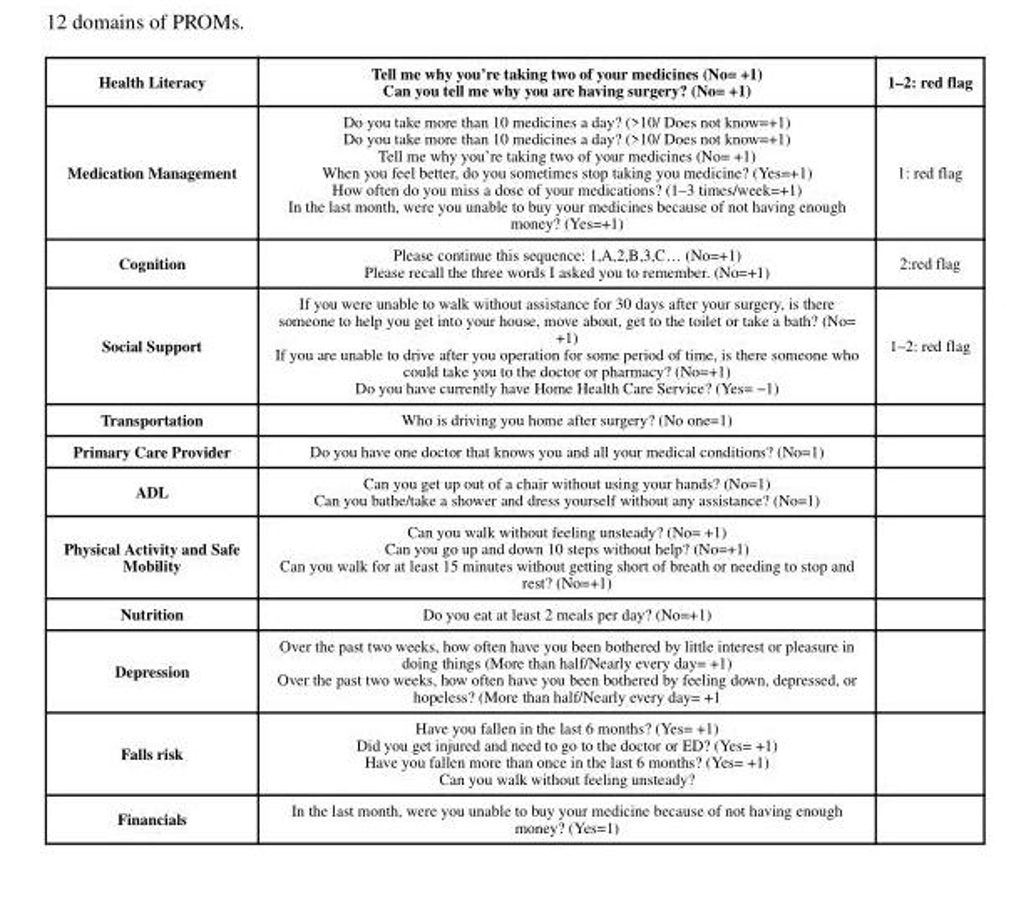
<table><thead><tr><td>Health Literacy</td><td>Tell me why you’re taking two of your medicines (No= +1) Can you tell me why you are having surgery? (No= +1)</td><td>1–2: red flag</td></tr></thead><tbody><tr><td>Medication Management</td><td>Do you take more than 10 medicines a day? (&gt;10/ Does not know=+1) Do you take more than 10 medicines a day? (&gt;10/ Does not know=+1) Tell me why you’re taking two of your medicines (No= +1) When you feel better, do you sometimes stop taking you medicine? (Yes=+1) How often do you miss a dose of your medications? (1–3 times/week=+1) In the last month, were you unable to buy your medicines because of not having enough money? (Yes=+1)</td><td>1: red flag</td></tr><tr><td>Cognition</td><td>Please continue this sequence: 1,A,2,B,3,C… (No=+1) Please recall the three words I asked you to remember. (No=+1)</td><td>2:red flag</td></tr><tr><td>Social Support</td><td>If you were unable to walk without assistance for 30 days after your surgery, is there someone to help you get into your house, move about, get to the toilet or take a bath? (No= +1) If you are unable to drive after you operation for some period of time, is there someone who could take you to the doctor or pharmacy? (No=+1) Do you have currently have Home Health Care Service? (Yes= −1)</td><td>1–2: red flag</td></tr><tr><td>Transportation</td><td>Who is driving you home after surgery? (No one=1)</td><td></td></tr><tr><td>Primary Care Provider</td><td>Do you have one doctor that knows you and all your medical conditions? (No=1)</td><td></td></tr><tr><td>ADL</td><td>Can you get up out of a chair without using your hands? (No=1) Can you bathe/take a shower and dress yourself without any assistance? (No=1)</td><td></td></tr><tr><td>Physical Activity and Safe Mobility</td><td>Can you walk without feeling unsteady? (No= +1) Can you go up and down 10 steps without help? (No=+1) Can you walk for at least 15 minutes without getting short of breath or needing to stop and rest? (No=+1)</td><td></td></tr><tr><td>Nutrition</td><td>Do you eat at least 2 meals per day? (No=+1)</td><td></td></tr><tr><td>Depression</td><td>Over the past two weeks, how often have you been bothered by little interest or pleasure in doing things (More than half/Nearly every day= +1) Over the past two weeks, how often have you been bothered by feeling down, depressed, or hopeless? (More than half/Nearly every day= +1</td><td></td></tr><tr><td>Falls risk</td><td>Have you fallen in the last 6 months? (Yes= +1) Did you get injured and need to go to the doctor or ED? (Yes= +1) Have you fallen more than once in the last 6 months? (Yes= +1) Can you walk without feeling unsteady?</td><td></td></tr><tr><td>Financials</td><td>In the last month, were you unable to buy your medicine because of not having enough money? (Yes=1)</td><td></td></tr></tbody></table>